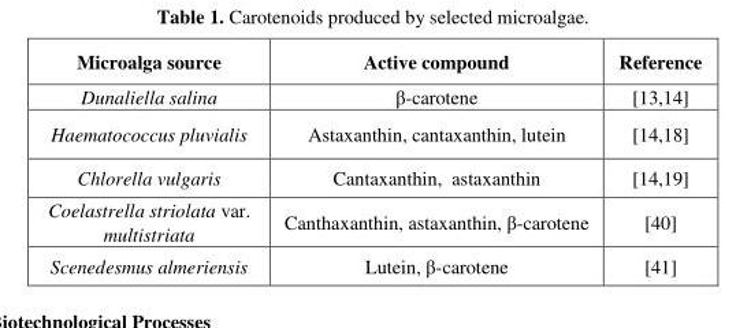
<table><thead><tr><td>Microalga source</td><td>Active compound</td><td>Reference</td></tr></thead><tbody><tr><td>Dunaliella salina</td><td>β-carotene</td><td>[13,14]</td></tr><tr><td>Haematococcus pluvialis</td><td>Astaxanthin, cantaxanthin, lutein</td><td>[14,18]</td></tr><tr><td>Chlorella vulgaris</td><td>Cantaxanthin, astaxanthin</td><td>[14,19]</td></tr><tr><td>Coelastrella striolata var. multistriata</td><td>Canthaxanthin, astaxanthin, β-carotene</td><td>[40]</td></tr><tr><td>Scenedesmus almeriensis</td><td>Lutein, β-carotene</td><td>[41]</td></tr></tbody></table>